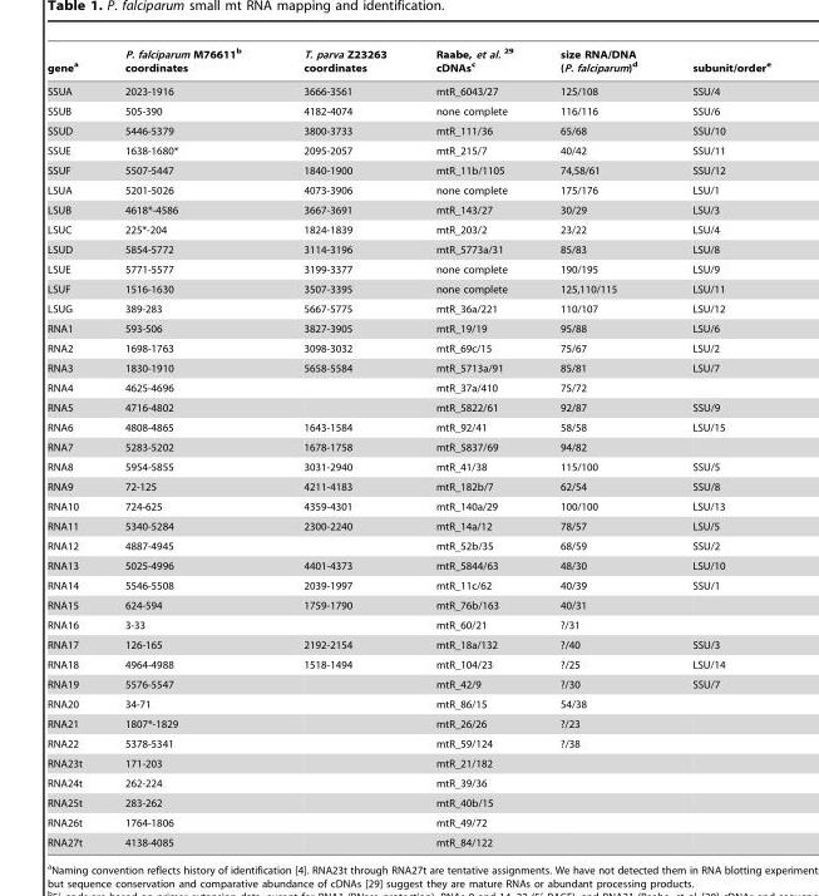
<table><thead><tr><td>gene<sup>a</sup></td><td>P. falciparum M76611<sup>b</sup> coordinates</td><td>T. parva Z23263 coordinates</td><td>Raabe, et al. <sup>29</sup> cDNAs<sup>c</sup></td><td>size RNA/DNA (P. falciparum)<sup>d</sup></td><td>subunit/order<sup>e</sup></td></tr></thead><tbody><tr><td>SSUA</td><td>2023-1916</td><td>3666-3561</td><td>mtR_6043/27</td><td>125/108</td><td>SSU/4</td></tr><tr><td>SSUB</td><td>505-390</td><td>4182-4074</td><td>none complete</td><td>116/116</td><td>SSU/6</td></tr><tr><td>SSUD</td><td>5446-5379</td><td>3800-3733</td><td>mtR_111/36</td><td>65/68</td><td>SSU/10</td></tr><tr><td>SSUE</td><td>1638-1680*</td><td>2095-2057</td><td>mtR_215/7</td><td>40/42</td><td>SSU/11</td></tr><tr><td>SSUF</td><td>5507-5447</td><td>1840-1900</td><td>mtR_11b/1105</td><td>74,58/61</td><td>SSU/12</td></tr><tr><td>LSUA</td><td>5201-5026</td><td>4073-3906</td><td>none complete</td><td>175/176</td><td>LSU/1</td></tr><tr><td>LSUB</td><td>4618*-4586</td><td>3667-3691</td><td>mtR_143/27</td><td>30/29</td><td>LSU/3</td></tr><tr><td>LSUC</td><td>225*-204</td><td>1824-1839</td><td>mtR_203/2</td><td>23/22</td><td>LSU/4</td></tr><tr><td>LSUD</td><td>5854-5772</td><td>3114-3196</td><td>mtR_5773a/31</td><td>85/83</td><td>LSU/8</td></tr><tr><td>LSUE</td><td>5771-5577</td><td>3199-3377</td><td>none complete</td><td>190/195</td><td>LSU/9</td></tr><tr><td>LSUF</td><td>1516-1630</td><td>3507-3395</td><td>none complete</td><td>125,110/115</td><td>LSU/11</td></tr><tr><td>LSUG</td><td>389-283</td><td>5667-5775</td><td>mtR_36a/221</td><td>110/107</td><td>LSU/12</td></tr><tr><td>RNA1</td><td>593-506</td><td>3827-3905</td><td>mtR_19/19</td><td>95/88</td><td>LSU/6</td></tr><tr><td>RNA2</td><td>1698-1763</td><td>3098-3032</td><td>mtR_69c/15</td><td>75/67</td><td>LSU/2</td></tr><tr><td>RNA3</td><td>1830-1910</td><td>5658-5584</td><td>mtR_5713a/91</td><td>85/81</td><td>LSU/7</td></tr><tr><td>RNA4</td><td>4625-4696</td><td></td><td>mtR_37a/410</td><td>75/72</td><td></td></tr><tr><td>RNA5</td><td>4716-4802</td><td></td><td>mtR_5822/61</td><td>92/87</td><td>SSU/9</td></tr><tr><td>RNA6</td><td>4808-4865</td><td>1643-1584</td><td>mtR_92/41</td><td>58/58</td><td>LSU/15</td></tr><tr><td>RNA7</td><td>5283-5202</td><td>1678-1758</td><td>mtR_5837/69</td><td>94/82</td><td></td></tr><tr><td>RNA8</td><td>5954-5855</td><td>3031-2940</td><td>mtR_41/38</td><td>115/100</td><td>SSU/5</td></tr><tr><td>RNA9</td><td>72-125</td><td>4211-4183</td><td>mtR_182b/7</td><td>62/54</td><td>SSU/8</td></tr><tr><td>RNA10</td><td>724-625</td><td>4359-4301</td><td>mtR_140a/29</td><td>100/100</td><td>LSU/13</td></tr><tr><td>RNA11</td><td>5340-5284</td><td>2300-2240</td><td>mtR_14a/12</td><td>78/57</td><td>LSU/5</td></tr><tr><td>RNA12</td><td>4887-4945</td><td></td><td>mtR_52b/35</td><td>68/59</td><td>SSU/2</td></tr><tr><td>RNA13</td><td>5025-4996</td><td>4401-4373</td><td>mtR_5844/63</td><td>48/30</td><td>LSU/10</td></tr><tr><td>RNA14</td><td>5546-5508</td><td>2039-1997</td><td>mtR_11c/62</td><td>40/39</td><td>SSU/1</td></tr><tr><td>RNA15</td><td>624-594</td><td>1759-1790</td><td>mtR_76b/163</td><td>40/31</td><td></td></tr><tr><td>RNA16</td><td>3-33</td><td></td><td>mtR_60/21</td><td>?/31</td><td></td></tr><tr><td>RNA17</td><td>126-165</td><td>2192-2154</td><td>mtR_18a/132</td><td>?/40</td><td>SSU/3</td></tr><tr><td>RNA18</td><td>4964-4988</td><td>1518-1494</td><td>mtR_104/23</td><td>?/25</td><td>LSU/14</td></tr><tr><td>RNA19</td><td>5576-5547</td><td></td><td>mtR_42/9</td><td>?/30</td><td>SSU/7</td></tr><tr><td>RNA20</td><td>34-71</td><td></td><td>mtR_86/15</td><td>54/38</td><td></td></tr><tr><td>RNA21</td><td>1807*-1829</td><td></td><td>mtR_26/26</td><td>?/23</td><td></td></tr><tr><td>RNA22</td><td>5378-5341</td><td></td><td>mtR_59/124</td><td>?/38</td><td></td></tr><tr><td>RNA23t</td><td>171-203</td><td></td><td>mtR_21/182</td><td></td><td></td></tr><tr><td>RNA24t</td><td>262-224</td><td></td><td>mtR_39/36</td><td></td><td></td></tr><tr><td>RNA25t</td><td>283-262</td><td></td><td>mtR_40b/15</td><td></td><td></td></tr><tr><td>RNA26t</td><td>1764-1806</td><td></td><td>mtR_49/72</td><td></td><td></td></tr><tr><td>RNA27t</td><td>4138-4085</td><td></td><td>mtR_84/122</td><td></td><td></td></tr></tbody></table>